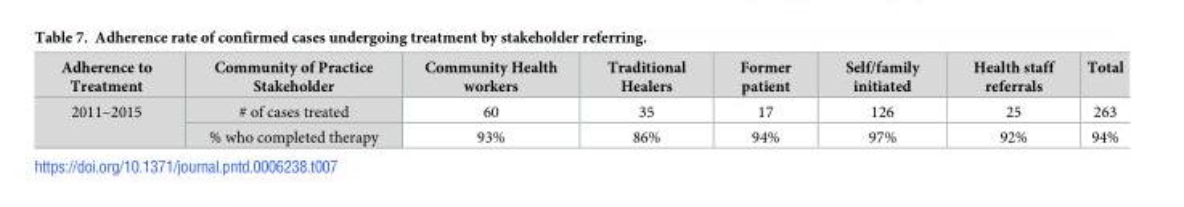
<table><thead><tr><td>Adherence to Treatment</td><td>Community of Practice Stakeholder</td><td>Community Health workers</td><td>Traditional Healers</td><td>Former patient</td><td>Self/family initiated</td><td>Health staff referrals</td><td>Total</td></tr></thead><tbody><tr><td rowspan="2">2011–2015</td><td># of cases treated</td><td>60</td><td>35</td><td>17</td><td>126</td><td>25</td><td>263</td></tr><tr><td>% who completed therapy</td><td>93%</td><td>86%</td><td>94%</td><td>97%</td><td>92%</td><td>94%</td></tr></tbody></table>